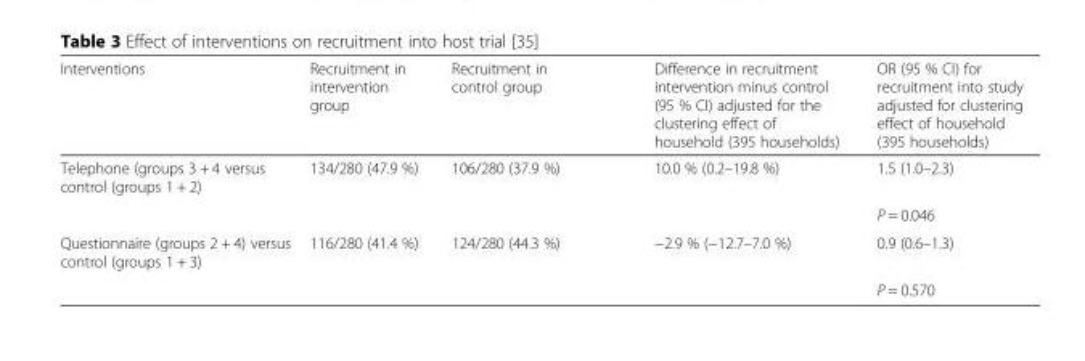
<table><thead><tr><td>Interventions</td><td>Recruitment in intervention group</td><td>Recruitment in control group</td><td>Difference in recruitment intervention minus control (95 % CI) adjusted for the clustering effect of household (395 households)</td><td>OR (95 % CI) for recruitment into study adjusted for clustering effect of household (395 households)</td></tr></thead><tbody><tr><td rowspan="2">Telephone (groups 3 + 4 versus control (groups 1 + 2)</td><td>134/280 (47.9 %)</td><td>106/280 (37.9 %)</td><td>10.0 % (0.2–19.8 %)</td><td>1.5 (1.0–2.3)</td></tr><tr><td></td><td></td><td></td><td>P = 0.046</td></tr><tr><td rowspan="2">Questionnaire (groups 2 + 4) versus control (groups 1 + 3)</td><td>116/280 (41.4 %)</td><td>124/280 (44.3 %)</td><td>−2.9 % (−12.7–7.0 %)</td><td>0.9 (0.6–1.3)</td></tr><tr><td></td><td></td><td></td><td>P = 0.570</td></tr></tbody></table>